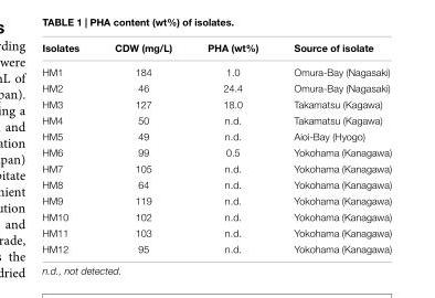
<table><thead><tr><td>Isolates</td><td>CDW (mg/L)</td><td>PHA (wt%)</td><td>Source of isolate</td></tr></thead><tbody><tr><td>HM1</td><td>184</td><td>1.0</td><td>Omura-Bay (Nagasaki)</td></tr><tr><td>HM2</td><td>46</td><td>24.4</td><td>Omura-Bay (Nagasaki)</td></tr><tr><td>HM3</td><td>127</td><td>18.0</td><td>Takamatsu (Kagawa)</td></tr><tr><td>HM4</td><td>50</td><td>n.d.</td><td>Takamatsu (Kagawa)</td></tr><tr><td>HM5</td><td>49</td><td>n.d.</td><td>Aioi-Bay (Hyogo)</td></tr><tr><td>HM6</td><td>99</td><td>0.5</td><td>Yokohama (Kanagawa)</td></tr><tr><td>HM7</td><td>105</td><td>n.d.</td><td>Yokohama (Kanagawa)</td></tr><tr><td>HM8</td><td>64</td><td>n.d.</td><td>Yokohama (Kanagawa)</td></tr><tr><td>HM9</td><td>119</td><td>n.d.</td><td>Yokohama (Kanagawa)</td></tr><tr><td>HM10</td><td>102</td><td>n.d.</td><td>Yokohama (Kanagawa)</td></tr><tr><td>HM11</td><td>103</td><td>n.d.</td><td>Yokohama (Kanagawa)</td></tr><tr><td>HM12</td><td>95</td><td>n.d.</td><td>Yokohama (Kanagawa)</td></tr></tbody></table>